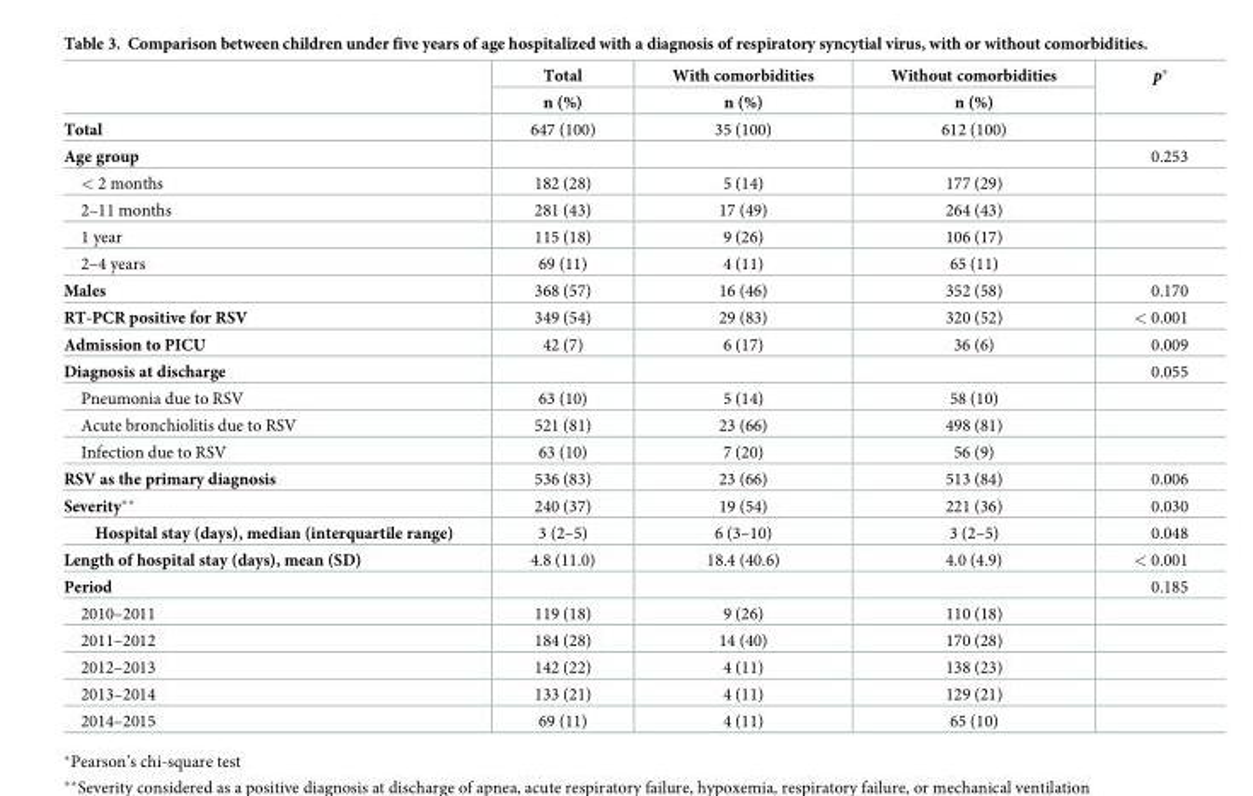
<table><thead><tr><td rowspan="2"></td><td rowspan="2">Total n (%)</td><td rowspan="2">With comorbidities n (%)</td><td rowspan="2">Without comorbidities n (%)</td><td rowspan="2">p*</td></tr><tr></tr></thead><tbody><tr><td>Total</td><td>647 (100)</td><td>35 (100)</td><td>612 (100)</td><td></td></tr><tr><td>Age group</td><td></td><td></td><td></td><td>0.253</td></tr><tr><td>&lt; 2 months</td><td>182 (28)</td><td>5 (14)</td><td>177 (29)</td><td></td></tr><tr><td>2–11 months</td><td>281 (43)</td><td>17 (49)</td><td>264 (43)</td><td></td></tr><tr><td>1 year</td><td>115 (18)</td><td>9 (26)</td><td>106 (17)</td><td></td></tr><tr><td>2–4 years</td><td>69 (11)</td><td>4 (11)</td><td>65 (11)</td><td></td></tr><tr><td>Males</td><td>368 (57)</td><td>16 (46)</td><td>352 (58)</td><td>0.170</td></tr><tr><td>RT-PCR positive for RSV</td><td>349 (54)</td><td>29 (83)</td><td>320 (52)</td><td>&lt; 0.001</td></tr><tr><td>Admission to PICU</td><td>42 (7)</td><td>6 (17)</td><td>36 (6)</td><td>0.009</td></tr><tr><td>Diagnosis at discharge</td><td></td><td></td><td></td><td>0.055</td></tr><tr><td>Pneumonia due to RSV</td><td>63 (10)</td><td>5 (14)</td><td>58 (10)</td><td></td></tr><tr><td>Acute bronchiolitis due to RSV</td><td>521 (81)</td><td>23 (66)</td><td>498 (81)</td><td></td></tr><tr><td>Infection due to RSV</td><td>63 (10)</td><td>7 (20)</td><td>56 (9)</td><td></td></tr><tr><td>RSV as the primary diagnosis</td><td>536 (83)</td><td>23 (66)</td><td>513 (84)</td><td>0.006</td></tr><tr><td>Severity**</td><td>240 (37)</td><td>19 (54)</td><td>221 (36)</td><td>0.030</td></tr><tr><td>Hospital stay (days), median (interquartile range)</td><td>3 (2–5)</td><td>6 (3–10)</td><td>3 (2–5)</td><td>0.048</td></tr><tr><td>Length of hospital stay (days), mean (SD)</td><td>4.8 (11.0)</td><td>18.4 (40.6)</td><td>4.0 (4.9)</td><td>&lt; 0.001</td></tr><tr><td>Period</td><td></td><td></td><td></td><td>0.185</td></tr><tr><td>2010–2011</td><td>119 (18)</td><td>9 (26)</td><td>110 (18)</td><td></td></tr><tr><td>2011–2012</td><td>184 (28)</td><td>14 (40)</td><td>170 (28)</td><td></td></tr><tr><td>2012–2013</td><td>142 (22)</td><td>4 (11)</td><td>138 (23)</td><td></td></tr><tr><td>2013–2014</td><td>133 (21)</td><td>4 (11)</td><td>129 (21)</td><td></td></tr><tr><td>2014–2015</td><td>69 (11)</td><td>4 (11)</td><td>65 (10)</td><td></td></tr></tbody></table>